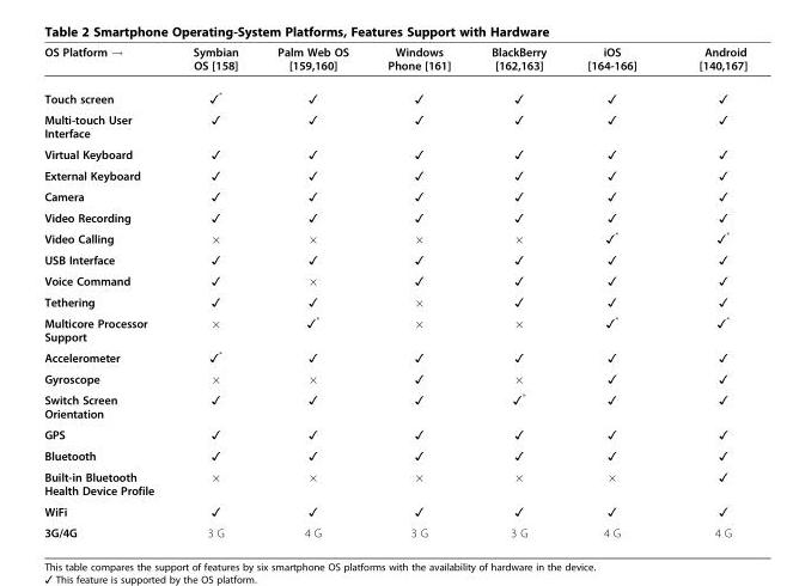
<table><thead><tr><td>OS Platform →</td><td>Symbian OS [158]</td><td>Palm Web OS [159,160]</td><td>Windows Phone [161]</td><td>BlackBerry [162,163]</td><td>iOS [164-166]</td><td>Android [140,167]</td></tr></thead><tbody><tr><td>Touch screen</td><td>✓*</td><td>✓</td><td>✓</td><td>✓</td><td>✓</td><td>✓</td></tr><tr><td>Multi-touch User Interface</td><td>✓</td><td>✓</td><td>✓</td><td>✓</td><td>✓</td><td>✓</td></tr><tr><td>Virtual Keyboard</td><td>✓</td><td>✓</td><td>✓</td><td>✓</td><td>✓</td><td>✓</td></tr><tr><td>External Keyboard</td><td>✓</td><td>✓</td><td>✓</td><td>✓</td><td>✓</td><td>✓</td></tr><tr><td>Camera</td><td>✓</td><td>✓</td><td>✓</td><td>✓</td><td>✓</td><td>✓</td></tr><tr><td>Video Recording</td><td>✓</td><td>✓</td><td>✓</td><td>✓</td><td>✓</td><td>✓</td></tr><tr><td>Video Calling</td><td>×</td><td>×</td><td>×</td><td>×</td><td>✓*</td><td>✓*</td></tr><tr><td>USB Interface</td><td>✓</td><td>✓</td><td>✓</td><td>✓</td><td>✓</td><td>✓</td></tr><tr><td>Voice Command</td><td>✓</td><td>×</td><td>✓</td><td>✓</td><td>✓</td><td>✓</td></tr><tr><td>Tethering</td><td>✓</td><td>✓</td><td>×</td><td>✓</td><td>✓</td><td>✓</td></tr><tr><td>Multicore Processor Support</td><td>×</td><td>✓*</td><td>×</td><td>×</td><td>✓*</td><td>✓*</td></tr><tr><td>Accelerometer</td><td>✓*</td><td>✓</td><td>✓</td><td>✓</td><td>✓</td><td>✓</td></tr><tr><td>Gyroscope</td><td>×</td><td>×</td><td>✓</td><td>×</td><td>✓</td><td>✓</td></tr><tr><td>Switch Screen Orientation</td><td>✓</td><td>✓</td><td>✓</td><td>✓*</td><td>✓</td><td>✓</td></tr><tr><td>GPS</td><td>✓</td><td>✓</td><td>✓</td><td>✓</td><td>✓</td><td>✓</td></tr><tr><td>Bluetooth</td><td>✓</td><td>✓</td><td>✓</td><td>✓</td><td>✓</td><td>✓</td></tr><tr><td>Built-in Bluetooth Health Device Profile</td><td>×</td><td>×</td><td>×</td><td>×</td><td>×</td><td>✓</td></tr><tr><td>WiFi</td><td>✓</td><td>✓</td><td>✓</td><td>✓</td><td>✓</td><td>✓</td></tr><tr><td>3G/4G</td><td>3 G</td><td>4 G</td><td>3 G</td><td>3 G</td><td>4 G</td><td>4 G</td></tr></tbody></table>